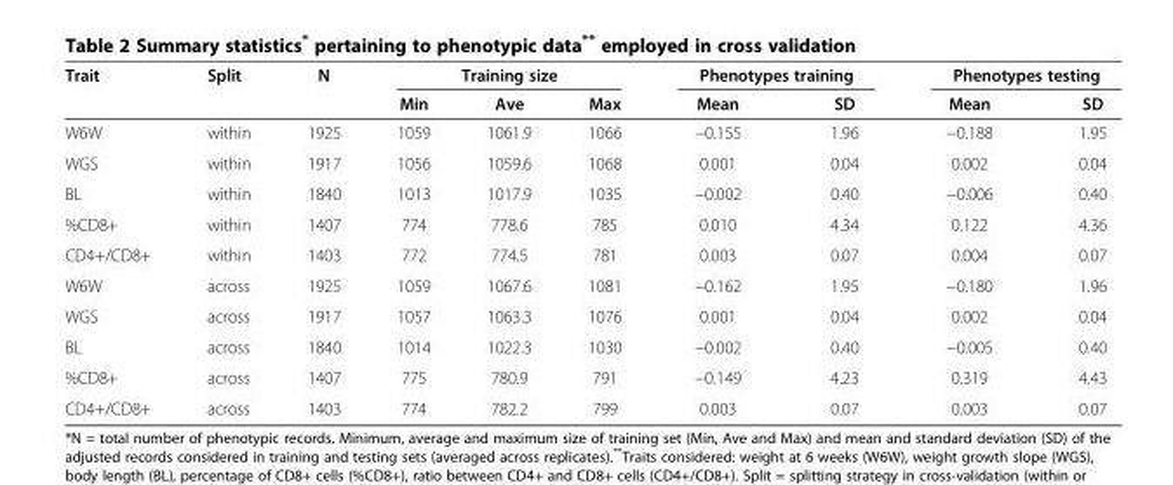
<table><thead><tr><td rowspan="2">Trait</td><td rowspan="2">Split</td><td rowspan="2">N</td><td colspan="3">Training size</td><td colspan="2">Phenotypes training</td><td colspan="2">Phenotypes testing</td></tr><tr><td>Min</td><td>Ave</td><td>Max</td><td>Mean</td><td>SD</td><td>Mean</td><td>SD</td></tr></thead><tbody><tr><td>W6W</td><td>within</td><td>1925</td><td>1059</td><td>1061.9</td><td>1066</td><td>−0.155</td><td>1.96</td><td>−0.188</td><td>1.95</td></tr><tr><td>WGS</td><td>within</td><td>1917</td><td>1056</td><td>1059.6</td><td>1068</td><td>0.001</td><td>0.04</td><td>0.002</td><td>0.04</td></tr><tr><td>BL</td><td>within</td><td>1840</td><td>1013</td><td>1017.9</td><td>1035</td><td>−0.002</td><td>0.40</td><td>−0.006</td><td>0.40</td></tr><tr><td>%CD8+</td><td>within</td><td>1407</td><td>774</td><td>778.6</td><td>785</td><td>0.010</td><td>4.34</td><td>0.122</td><td>4.36</td></tr><tr><td>CD4+/CD8+</td><td>within</td><td>1403</td><td>772</td><td>774.5</td><td>781</td><td>0.003</td><td>0.07</td><td>0.004</td><td>0.07</td></tr><tr><td>W6W</td><td>across</td><td>1925</td><td>1059</td><td>1067.6</td><td>1081</td><td>−0.162</td><td>1.95</td><td>−0.180</td><td>1.96</td></tr><tr><td>WGS</td><td>across</td><td>1917</td><td>1057</td><td>1063.3</td><td>1076</td><td>0.001</td><td>0.04</td><td>0.002</td><td>0.04</td></tr><tr><td>BL</td><td>across</td><td>1840</td><td>1014</td><td>1022.3</td><td>1030</td><td>−0.002</td><td>0.40</td><td>−0.005</td><td>0.40</td></tr><tr><td>%CD8+</td><td>across</td><td>1407</td><td>775</td><td>780.9</td><td>791</td><td>−0.149</td><td>4.23</td><td>0.319</td><td>4.43</td></tr><tr><td>CD4+/CD8+</td><td>across</td><td>1403</td><td>774</td><td>782.2</td><td>799</td><td>0.003</td><td>0.07</td><td>0.003</td><td>0.07</td></tr></tbody></table>